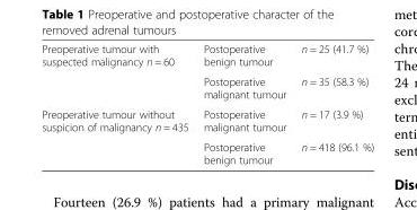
<table><tbody><tr><td rowspan="2">Preoperative tumour with suspected malignancy n = 60</td><td>Postoperative benign tumour</td><td>n = 25 (41.7 %)</td></tr><tr><td>Postoperative malignant tumour</td><td>n = 35 (58.3 %)</td></tr><tr><td rowspan="2">Preoperative tumour without suspicion of malignancy n = 435</td><td>Postoperative malignant tumour</td><td>n = 17 (3.9 %)</td></tr><tr><td>Postoperative benign tumour</td><td>n = 418 (96.1 %)</td></tr></tbody></table>